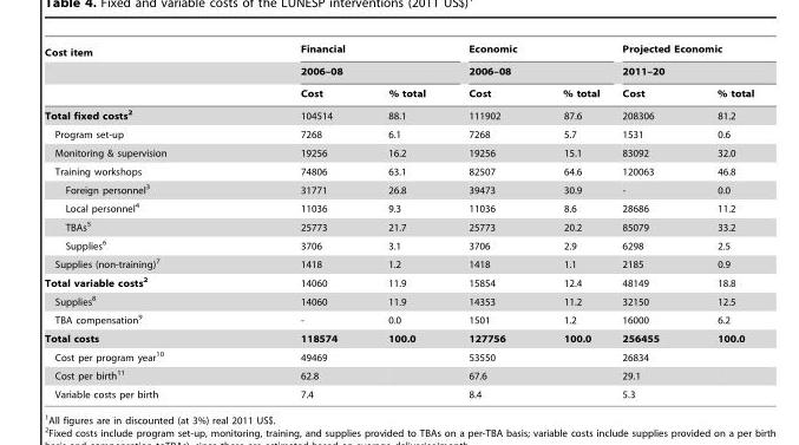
<table><thead><tr><td rowspan="4">Cost item Total fixed costs2</td><td rowspan="3" colspan="2">Financial 2006–08 Cost % total</td><td rowspan="3" colspan="2">Economic 2006–08 Cost % total</td><td rowspan="3" colspan="2">Projected Economic 2011–20 Cost % total</td></tr><tr></tr><tr></tr><tr><td>104514</td><td>88.1</td><td>111902</td><td>87.6</td><td>208306</td><td>81.2</td></tr></thead><tbody><tr><td>Program set-up</td><td>7268</td><td>6.1</td><td>7268</td><td>5.7</td><td>1531</td><td>0.6</td></tr><tr><td>Monitoring &amp; supervision</td><td>19256</td><td>16.2</td><td>19256</td><td>15.1</td><td>83092</td><td>32.0</td></tr><tr><td>Training workshops</td><td>74806</td><td>63.1</td><td>82507</td><td>64.6</td><td>120063</td><td>46.8</td></tr><tr><td>Foreign personnel<sup>3</sup></td><td>31771</td><td>26.8</td><td>39473</td><td>30.9</td><td>-</td><td>0.0</td></tr><tr><td>Local personnel<sup>4</sup></td><td>11036</td><td>9.3</td><td>11036</td><td>8.6</td><td>28686</td><td>11.2</td></tr><tr><td>TBAs<sup>5</sup></td><td>25773</td><td>21.7</td><td>25773</td><td>20.2</td><td>85079</td><td>33.2</td></tr><tr><td>Supplies<sup>6</sup></td><td>3706</td><td>3.1</td><td>3706</td><td>2.9</td><td>6298</td><td>2.5</td></tr><tr><td>Supplies (non-training)<sup>7</sup></td><td>1418</td><td>1.2</td><td>1418</td><td>1.1</td><td>2185</td><td>0.9</td></tr><tr><td>Total variable costs2</td><td>14060</td><td>11.9</td><td>15854</td><td>12.4</td><td>48149</td><td>18.8</td></tr><tr><td>Supplies<sup>8</sup></td><td>14060</td><td>11.9</td><td>14353</td><td>11.2</td><td>32150</td><td>12.5</td></tr><tr><td>TBA compensation<sup>9</sup></td><td>-</td><td>0.0</td><td>1501</td><td>1.2</td><td>16000</td><td>6.2</td></tr><tr><td>Total costs</td><td>118574</td><td>100.0</td><td>127756</td><td>100.0</td><td>256455</td><td>100.0</td></tr><tr><td>Cost per program year<sup>10</sup></td><td>49469</td><td></td><td>53550</td><td></td><td>26834</td><td></td></tr><tr><td>Cost per birth<sup>11</sup></td><td>62.8</td><td></td><td>67.6</td><td></td><td>29.1</td><td></td></tr><tr><td>Variable costs per birth</td><td>7.4</td><td></td><td>8.4</td><td></td><td>5.3</td><td></td></tr></tbody></table>